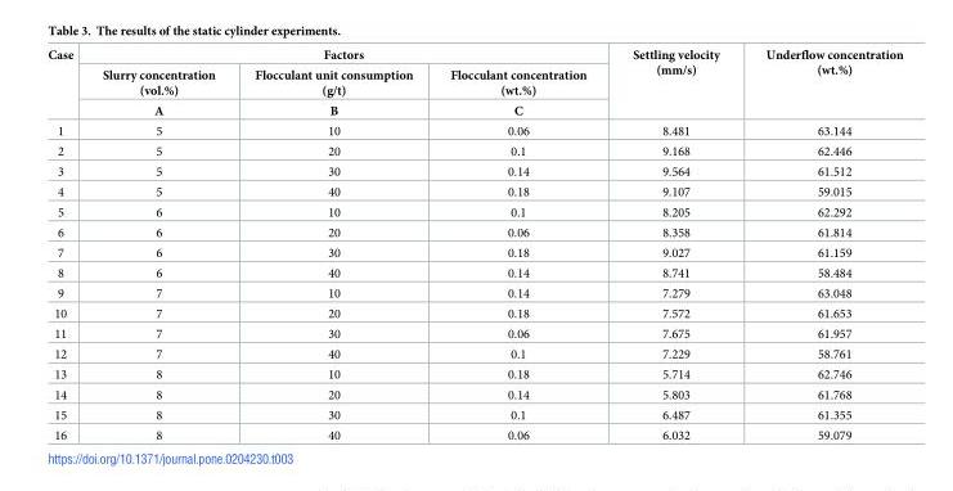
<table><thead><tr><td rowspan="3">Case</td><td colspan="3">Factors</td><td rowspan="3">Settling velocity (mm/s)</td><td rowspan="3">Underflow concentration (wt.%)</td></tr><tr><td rowspan="2">Slurry concentration (vol.%) A</td><td rowspan="2">Flocculant unit consumption (g/t) B</td><td rowspan="2">Flocculant concentration (wt.%) C</td></tr><tr></tr></thead><tbody><tr><td>1</td><td>5</td><td>10</td><td>0.06</td><td>8.481</td><td>63.144</td></tr><tr><td>2</td><td>5</td><td>20</td><td>0.1</td><td>9.168</td><td>62.446</td></tr><tr><td>3</td><td>5</td><td>30</td><td>0.14</td><td>9.564</td><td>61.512</td></tr><tr><td>4</td><td>5</td><td>40</td><td>0.18</td><td>9.107</td><td>59.015</td></tr><tr><td>5</td><td>6</td><td>10</td><td>0.1</td><td>8.205</td><td>62.292</td></tr><tr><td>6</td><td>6</td><td>20</td><td>0.06</td><td>8.358</td><td>61.814</td></tr><tr><td>7</td><td>6</td><td>30</td><td>0.18</td><td>9.027</td><td>61.159</td></tr><tr><td>8</td><td>6</td><td>40</td><td>0.14</td><td>8.741</td><td>58.484</td></tr><tr><td>9</td><td>7</td><td>10</td><td>0.14</td><td>7.279</td><td>63.048</td></tr><tr><td>10</td><td>7</td><td>20</td><td>0.18</td><td>7.572</td><td>61.653</td></tr><tr><td>11</td><td>7</td><td>30</td><td>0.06</td><td>7.675</td><td>61.957</td></tr><tr><td>12</td><td>7</td><td>40</td><td>0.1</td><td>7.229</td><td>58.761</td></tr><tr><td>13</td><td>8</td><td>10</td><td>0.18</td><td>5.714</td><td>62.746</td></tr><tr><td>14</td><td>8</td><td>20</td><td>0.14</td><td>5.803</td><td>61.768</td></tr><tr><td>15</td><td>8</td><td>30</td><td>0.1</td><td>6.487</td><td>61.355</td></tr><tr><td>16</td><td>8</td><td>40</td><td>0.06</td><td>6.032</td><td>59.079</td></tr></tbody></table>